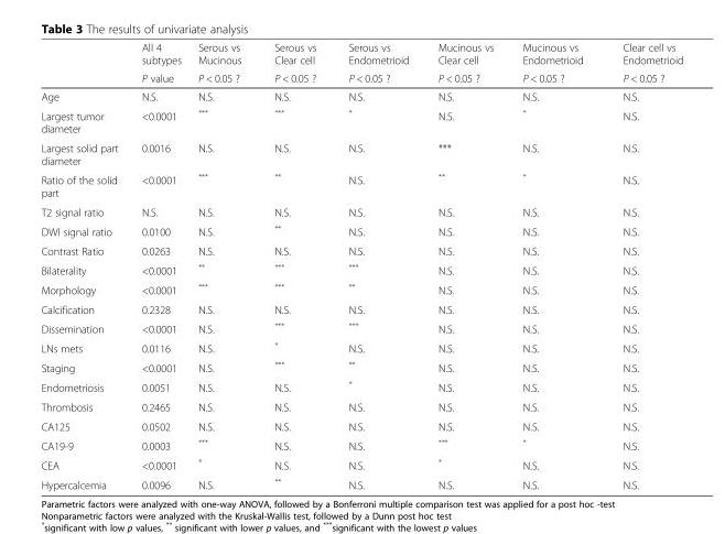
<table><thead><tr><td rowspan="2"></td><td rowspan="2">All 4 subtypes P value</td><td rowspan="2">Serous vs Mucinous P &lt; 0.05 ?</td><td rowspan="2">Serous vs Clear cell P &lt; 0.05 ?</td><td rowspan="2">Serous vs Endometrioid P &lt; 0.05 ?</td><td rowspan="2">Mucinous vs Clear cell P &lt; 0.05 ?</td><td rowspan="2">Mucinous vs Endometrioid P &lt; 0.05 ?</td><td rowspan="2">Clear cell vs Endometrioid P &lt; 0.05 ?</td></tr><tr></tr></thead><tbody><tr><td>Age</td><td>N.S.</td><td>N.S.</td><td>N.S.</td><td>N.S.</td><td>N.S.</td><td>N.S.</td><td>N.S.</td></tr><tr><td>Largest tumor diameter</td><td>&lt;0.0001</td><td>***</td><td>***</td><td>*</td><td>N.S.</td><td>*</td><td>N.S.</td></tr><tr><td>Largest solid part diameter</td><td>0.0016</td><td>N.S.</td><td>N.S.</td><td>N.S.</td><td>***</td><td>N.S.</td><td>N.S.</td></tr><tr><td>Ratio of the solid part</td><td>&lt;0.0001</td><td>***</td><td>**</td><td>N.S.</td><td>**</td><td>*</td><td>N.S.</td></tr><tr><td>T2 signal ratio</td><td>N.S.</td><td>N.S.</td><td>N.S.</td><td>N.S.</td><td>N.S.</td><td>N.S.</td><td>N.S.</td></tr><tr><td>DWI signal ratio</td><td>0.0100</td><td>N.S.</td><td>**</td><td>N.S.</td><td>N.S.</td><td>N.S.</td><td>N.S.</td></tr><tr><td>Contrast Ratio</td><td>0.0263</td><td>N.S.</td><td>N.S.</td><td>N.S.</td><td>N.S.</td><td>N.S.</td><td>N.S.</td></tr><tr><td>Bilaterality</td><td>&lt;0.0001</td><td>**</td><td>***</td><td>***</td><td>N.S.</td><td>N.S.</td><td>N.S.</td></tr><tr><td>Morphology</td><td>&lt;0.0001</td><td>***</td><td>***</td><td>**</td><td>N.S.</td><td>N.S.</td><td>N.S.</td></tr><tr><td>Calcification</td><td>0.2328</td><td>N.S.</td><td>N.S.</td><td>N.S.</td><td>N.S.</td><td>N.S.</td><td>N.S.</td></tr><tr><td>Dissemination</td><td>&lt;0.0001</td><td>N.S.</td><td>***</td><td>***</td><td>N.S.</td><td>N.S.</td><td>N.S.</td></tr><tr><td>LNs mets</td><td>0.0116</td><td>N.S.</td><td>*</td><td>N.S.</td><td>N.S.</td><td>N.S.</td><td>N.S.</td></tr><tr><td>Staging</td><td>&lt;0.0001</td><td>N.S.</td><td>***</td><td>**</td><td>N.S.</td><td>N.S.</td><td>N.S.</td></tr><tr><td>Endometriosis</td><td>0.0051</td><td>N.S.</td><td>N.S.</td><td>*</td><td>N.S.</td><td>N.S.</td><td>N.S.</td></tr><tr><td>Thrombosis</td><td>0.2465</td><td>N.S.</td><td>N.S.</td><td>N.S.</td><td>N.S.</td><td>N.S.</td><td>N.S.</td></tr><tr><td>CA125</td><td>0.0502</td><td>N.S.</td><td>N.S.</td><td>N.S.</td><td>N.S.</td><td>N.S.</td><td>N.S.</td></tr><tr><td>CA19-9</td><td>0.0003</td><td>***</td><td>N.S.</td><td>N.S.</td><td>***</td><td>*</td><td>N.S.</td></tr><tr><td>CEA</td><td>&lt;0.0001</td><td>*</td><td>N.S.</td><td>N.S.</td><td>*</td><td>N.S.</td><td>N.S.</td></tr><tr><td>Hypercalcemia</td><td>0.0096</td><td>N.S.</td><td>**</td><td>N.S.</td><td>N.S.</td><td>N.S.</td><td>N.S.</td></tr></tbody></table>